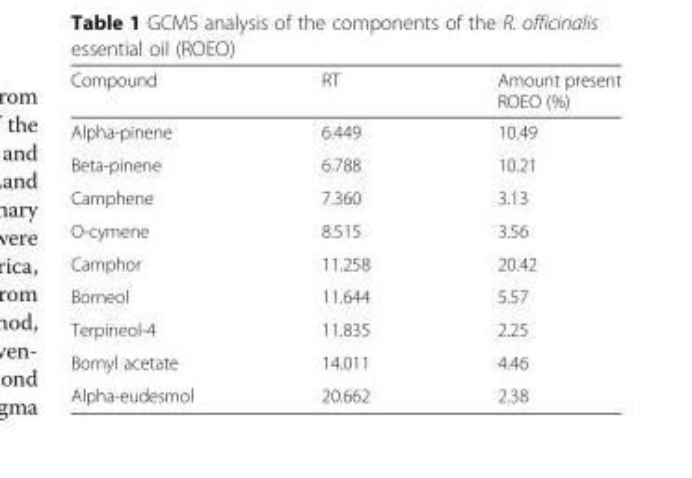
<table><thead><tr><td>Compound</td><td>RT</td><td>Amount present ROEO (%)</td></tr></thead><tbody><tr><td>Alpha-pinene</td><td>6.449</td><td>10.49</td></tr><tr><td>Beta-pinene</td><td>6.788</td><td>10.21</td></tr><tr><td>Camphene</td><td>7.360</td><td>3.13</td></tr><tr><td>O-cymene</td><td>8.515</td><td>3.56</td></tr><tr><td>Camphor</td><td>11.258</td><td>20.42</td></tr><tr><td>Borneol</td><td>11.644</td><td>5.57</td></tr><tr><td>Terpineol-4</td><td>11.835</td><td>2.25</td></tr><tr><td>Bornyl acetate</td><td>14.011</td><td>4.46</td></tr><tr><td>Alpha-eudesmol</td><td>20.662</td><td>2.38</td></tr></tbody></table>